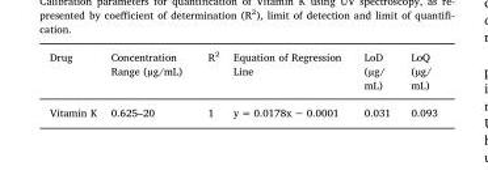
<table><thead><tr><td>Drug</td><td>Concentration Range (µg/mL)</td><td>R<sup>2</sup></td><td>Equation of Regression Line</td><td>LoD (µg/ mL)</td><td>LoQ (µg/ mL)</td></tr></thead><tbody><tr><td>Vitamin K</td><td>0.625–20</td><td>1</td><td>y = 0.0178x − 0.0001</td><td>0.031</td><td>0.093</td></tr></tbody></table>